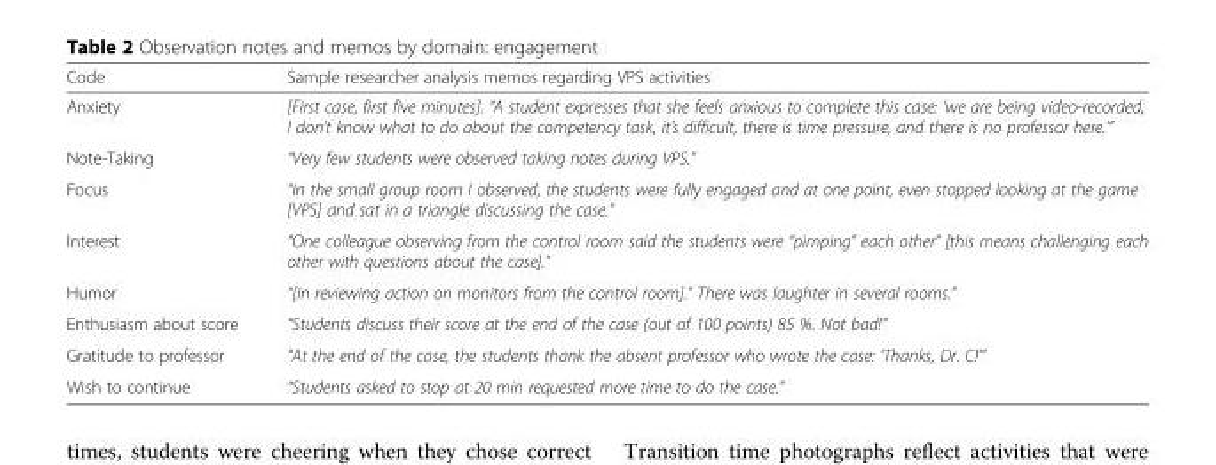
<table><thead><tr><td>Code</td><td>Sample researcher analysis memos regarding VPS activities</td></tr></thead><tbody><tr><td>Anxiety</td><td>[First case, first five minutes]. “A student expresses that she feels anxious to complete this case: ‘we are being video-recorded, I don’t know what to do about the competency task, it’s difficult, there is time pressure, and there is no professor here.’”</td></tr><tr><td>Note-Taking</td><td>“Very few students were observed taking notes during VPS.”</td></tr><tr><td>Focus</td><td>“In the small group room I observed, the students were fully engaged and at one point, even stopped looking at the game [VPS] and sat in a triangle discussing the case.”</td></tr><tr><td>Interest</td><td>“One colleague observing from the control room said the students were “pimping” each other” [this means challenging each other with questions about the case].”</td></tr><tr><td>Humor</td><td>“[In reviewing action on monitors from the control room].” There was laughter in several rooms.”</td></tr><tr><td>Enthusiasm about score</td><td>“Students discuss their score at the end of the case (out of 100 points) 85 %. Not bad!”</td></tr><tr><td>Gratitude to professor</td><td>“At the end of the case, the students thank the absent professor who wrote the case: ‘Thanks, Dr. C!’”</td></tr><tr><td>Wish to continue</td><td>“Students asked to stop at 20 min requested more time to do the case.”</td></tr></tbody></table>